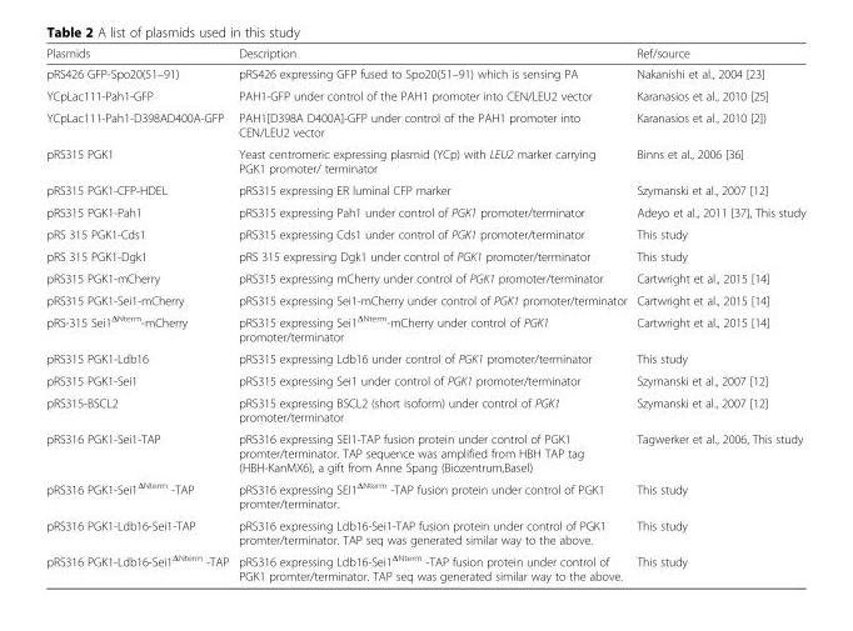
<table><thead><tr><td>Plasmids</td><td>Description</td><td>Ref/source</td></tr></thead><tbody><tr><td>pRS426 GFP-Spo20(51–91)</td><td>pRS426 expressing GFP fused to Spo20(51–91) which is sensing PA</td><td>Nakanishi et al., 2004 [23]</td></tr><tr><td>YCpLac111-Pah1-GFP</td><td>PAH1-GFP under control of the PAH1 promoter into CEN/LEU2 vector</td><td>Karanasios et al., 2010 [25]</td></tr><tr><td>YCpLac111-Pah1-D398AD400A-GFP</td><td>PAH1[D398A D400A]-GFP under control of the PAH1 promoter into CEN/LEU2 vector</td><td>Karanasios et al., 2010 [2])</td></tr><tr><td>pRS315 PGK1</td><td>Yeast centromeric expressing plasmid (YCp) with LEU2 marker carrying PGK1 promoter/ terminator</td><td>Binns et al., 2006 [36]</td></tr><tr><td>pRS315 PGK1-CFP-HDEL</td><td>pRS315 expressing ER luminal CFP marker</td><td>Szymanski et al., 2007 [12]</td></tr><tr><td>pRS315 PGK1-Pah1</td><td>pRS315 expressing Pah1 under control of PGK1 promoter/terminator</td><td>Adeyo et al., 2011 [37], This study</td></tr><tr><td>pRS 315 PGK1-Cds1</td><td>pRS315 expressing Cds1 under control of PGK1 promoter/terminator</td><td>This study</td></tr><tr><td>pRS 315 PGK1-Dgk1</td><td>pRS 315 expressing Dgk1 under control of PGK1 promoter/terminator</td><td>This study</td></tr><tr><td>pRS315 PGK1-mCherry</td><td>pRS315 expressing mCherry under control of PGK1 promoter/terminator</td><td>Cartwright et al., 2015 [14]</td></tr><tr><td>pRS315 PGK1-Sei1-mCherry</td><td>pRS315 expressing Sei1-mCherry under control of PGK1 promoter/terminator</td><td>Cartwright et al., 2015 [14]</td></tr><tr><td>pRS-315 Sei1<sup>ΔNterm</sup>-mCherry</td><td>pRS315 expressing Sei1<sup>ΔNterm</sup>-mCherry under control of PGK1 promoter/terminator</td><td>Cartwright et al., 2015 [14]</td></tr><tr><td>pRS315 PGK1-Ldb16</td><td>pRS315 expressing Ldb16 under control of PGK1 promoter/terminator</td><td>This study</td></tr><tr><td>pRS315 PGK1-Sei1</td><td>pRS315 expressing Sei1 under control of PGK1 promoter/terminator</td><td>Szymanski et al., 2007 [12]</td></tr><tr><td>pRS315-BSCL2</td><td>pRS315 expressing BSCL2 (short isoform) under control of PGK1 promoter/terminator</td><td>Szymanski et al., 2007 [12]</td></tr><tr><td>pRS316 PGK1-Sei1-TAP</td><td>pRS316 expressing SEI1-TAP fusion protein under control of PGK1 promter/terminator. TAP sequence was amplified from HBH TAP tag (HBH-KanMX6), a gift from Anne Spang (Biozentrum,Basel)</td><td>Tagwerker et al., 2006, This study</td></tr><tr><td>pRS316 PGK1-Sei1<sup>ΔNterm</sup> -TAP</td><td>pRS316 expressing SEI1<sup>ΔNterm</sup> -TAP fusion protein under control of PGK1 promter/terminator.</td><td>This study</td></tr><tr><td>pRS316 PGK1-Ldb16-Sei1-TAP</td><td>pRS316 expressing Ldb16-Sei1-TAP fusion protein under control of PGK1 promter/terminator. TAP seq was generated similar way to the above.</td><td>This study</td></tr><tr><td>pRS316 PGK1-Ldb16-Sei1<sup>ΔNterm</sup> -TAP</td><td>pRS316 expressing Ldb16-Sei1<sup>ΔNterm</sup> -TAP fusion protein under control of PGK1 promter/terminator. TAP seq was generated similar way to the above.</td><td>This study</td></tr></tbody></table>